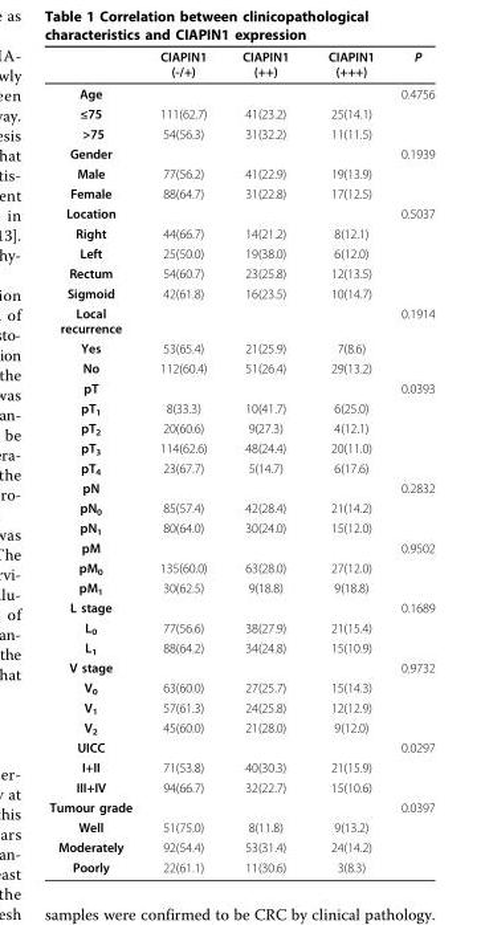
<table><thead><tr><td></td><td>CIAPIN1 (-/+)</td><td>CIAPIN1 (++)</td><td>CIAPIN1 (+++)</td><td>P</td></tr></thead><tbody><tr><td>Age</td><td></td><td></td><td></td><td>0.4756</td></tr><tr><td>≤75</td><td>111(62.7)</td><td>41(23.2)</td><td>25(14.1)</td><td></td></tr><tr><td>&gt;75</td><td>54(56.3)</td><td>31(32.2)</td><td>11(11.5)</td><td></td></tr><tr><td>Gender</td><td></td><td></td><td></td><td>0.1939</td></tr><tr><td>Male</td><td>77(56.2)</td><td>41(22.9)</td><td>19(13.9)</td><td></td></tr><tr><td>Female</td><td>88(64.7)</td><td>31(22.8)</td><td>17(12.5)</td><td></td></tr><tr><td>Location</td><td></td><td></td><td></td><td>0.5037</td></tr><tr><td>Right</td><td>44(66.7)</td><td>14(21.2)</td><td>8(12.1)</td><td></td></tr><tr><td>Left</td><td>25(50.0)</td><td>19(38.0)</td><td>6(12.0)</td><td></td></tr><tr><td>Rectum</td><td>54(60.7)</td><td>23(25.8)</td><td>12(13.5)</td><td></td></tr><tr><td>Sigmoid</td><td>42(61.8)</td><td>16(23.5)</td><td>10(14.7)</td><td></td></tr><tr><td>Local recurrence</td><td></td><td></td><td></td><td>0.1914</td></tr><tr><td>Yes</td><td>53(65.4)</td><td>21(25.9)</td><td>7(8.6)</td><td></td></tr><tr><td>No</td><td>112(60.4)</td><td>51(26.4)</td><td>29(13.2)</td><td></td></tr><tr><td>pT</td><td></td><td></td><td></td><td>0.0393</td></tr><tr><td>pT<sub>1</sub></td><td>8(33.3)</td><td>10(41.7)</td><td>6(25.0)</td><td></td></tr><tr><td>pT<sub>2</sub></td><td>20(60.6)</td><td>9(27.3)</td><td>4(12.1)</td><td></td></tr><tr><td>pT<sub>3</sub></td><td>114(62.6)</td><td>48(24.4)</td><td>20(11.0)</td><td></td></tr><tr><td>pT<sub>4</sub></td><td>23(67.7)</td><td>5(14.7)</td><td>6(17.6)</td><td></td></tr><tr><td>pN</td><td></td><td></td><td></td><td>0.2832</td></tr><tr><td>pN<sub>0</sub></td><td>85(57.4)</td><td>42(28.4)</td><td>21(14.2)</td><td></td></tr><tr><td>pN<sub>1</sub></td><td>80(64.0)</td><td>30(24.0)</td><td>15(12.0)</td><td></td></tr><tr><td>pM</td><td></td><td></td><td></td><td>0.9502</td></tr><tr><td>pM<sub>0</sub></td><td>135(60.0)</td><td>63(28.0)</td><td>27(12.0)</td><td></td></tr><tr><td>pM<sub>1</sub></td><td>30(62.5)</td><td>9(18.8)</td><td>9(18.8)</td><td></td></tr><tr><td>L stage</td><td></td><td></td><td></td><td>0.1689</td></tr><tr><td>L<sub>0</sub></td><td>77(56.6)</td><td>38(27.9)</td><td>21(15.4)</td><td></td></tr><tr><td>L<sub>1</sub></td><td>88(64.2)</td><td>34(24.8)</td><td>15(10.9)</td><td></td></tr><tr><td>V stage</td><td></td><td></td><td></td><td>0.9732</td></tr><tr><td>V<sub>0</sub></td><td>63(60.0)</td><td>27(25.7)</td><td>15(14.3)</td><td></td></tr><tr><td>V<sub>1</sub></td><td>57(61.3)</td><td>24(25.8)</td><td>12(12.9)</td><td></td></tr><tr><td>V<sub>2</sub></td><td>45(60.0)</td><td>21(28.0)</td><td>9(12.0)</td><td></td></tr><tr><td>UICC</td><td></td><td></td><td></td><td>0.0297</td></tr><tr><td>I+II</td><td>71(53.8)</td><td>40(30.3)</td><td>21(15.9)</td><td></td></tr><tr><td>III+IV</td><td>94(66.7)</td><td>32(22.7)</td><td>15(10.6)</td><td></td></tr><tr><td>Tumour grade</td><td></td><td></td><td></td><td>0.0397</td></tr><tr><td>Well</td><td>51(75.0)</td><td>8(11.8)</td><td>9(13.2)</td><td></td></tr><tr><td>Moderately</td><td>92(54.4)</td><td>53(31.4)</td><td>24(14.2)</td><td></td></tr><tr><td>Poorly</td><td>22(61.1)</td><td>11(30.6)</td><td>3(8.3)</td><td></td></tr></tbody></table>